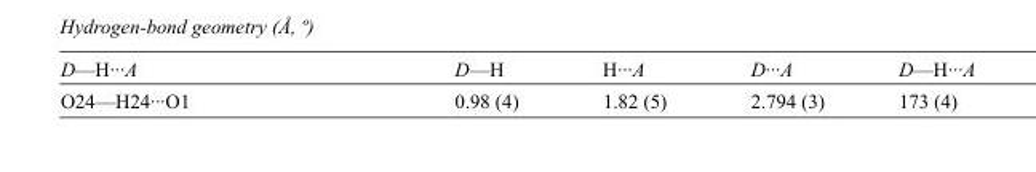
<table><tbody><tr><td>D—H···A</td><td>D—H</td><td>H···A</td><td>D···A</td><td>D—H···A</td></tr><tr><td>O24—H24···O1</td><td>0.98 (4)</td><td>1.82 (5)</td><td>2.794 (3)</td><td>173 (4)</td></tr></tbody></table>